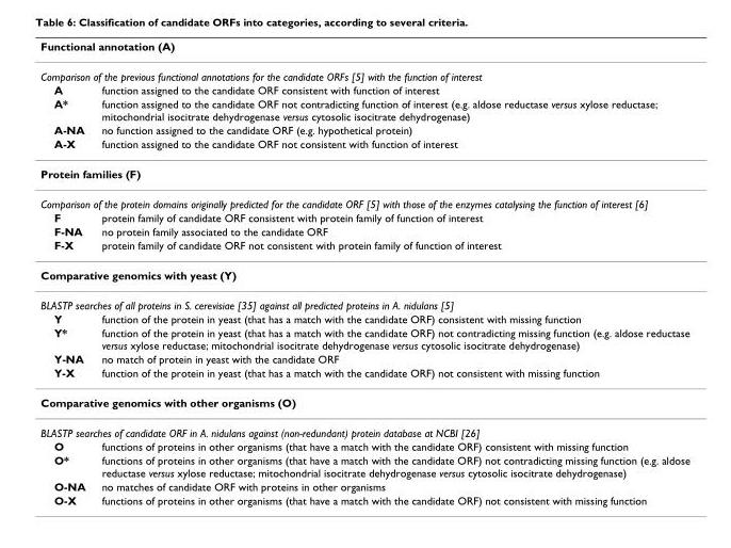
<table><thead><tr><td rowspan="2" colspan="2">Functional annotation (A) Comparison of the previous functional annotations for the candidate ORFs [5] with the function of interest</td></tr><tr></tr><tr><td>A</td><td>function assigned to the candidate ORF consistent with function of interest</td></tr></thead><tbody><tr><td>A*</td><td>function assigned to the candidate ORF not contradicting function of interest (e.g. aldose reductase versus xylose reductase; mitochondrial isocitrate dehydrogenase versus cytosolic isocitrate dehydrogenase)</td></tr><tr><td>A-NA</td><td>no function assigned to the candidate ORF (e.g. hypothetical protein)</td></tr><tr><td>A-X</td><td>function assigned to the candidate ORF not consistent with function of interest</td></tr><tr><td colspan="2">Protein families (F)</td></tr><tr><td colspan="2">Comparison of the protein domains originally predicted for the candidate ORF [5] with those of the enzymes catalysing the function of interest [6]</td></tr><tr><td>F</td><td>protein family of candidate ORF consistent with protein family of function of interest</td></tr><tr><td>F-NA</td><td>no protein family associated to the candidate ORF</td></tr><tr><td>F-X</td><td>protein family of candidate ORF not consistent with protein family of function of interest</td></tr><tr><td colspan="2">Comparative genomics with yeast (Y)</td></tr><tr><td colspan="2">BLASTP searches of all proteins in S. cerevisiae [35] against all predicted proteins in A. nidulans [5]</td></tr><tr><td>Y</td><td>function of the protein in yeast (that has a match with the candidate ORF) consistent with missing function</td></tr><tr><td>Y*</td><td>function of the protein in yeast (that has a match with the candidate ORF) not contradicting missing function (e.g. aldose reductase versus xylose reductase; mitochondrial isocitrate dehydrogenase versus cytosolic isocitrate dehydrogenase)</td></tr><tr><td>Y-NA</td><td>no match of protein in yeast with the candidate ORF</td></tr><tr><td>Y-X</td><td>function of the protein in yeast (that has a match with the candidate ORF) not consistent with missing function</td></tr><tr><td colspan="2">Comparative genomics with other organisms (O)</td></tr><tr><td colspan="2">BLASTP searches of candidate ORF in A. nidulans against (non-redundant) protein database at NCBI [26]</td></tr><tr><td>O</td><td>functions of proteins in other organisms (that have a match with the candidate ORF) consistent with missing function</td></tr><tr><td>O*</td><td>functions of proteins in other organisms (that have a match with the candidate ORF) not contradicting missing function (e.g. aldose reductase versus xylose reductase; mitochondrial isocitrate dehydrogenase versus cytosolic isocitrate dehydrogenase)</td></tr><tr><td>O-NA</td><td>no matches of candidate ORF with proteins in other organisms</td></tr><tr><td>O-X</td><td>functions of proteins in other organisms (that have a match with the candidate ORF) not consistent with missing function</td></tr></tbody></table>